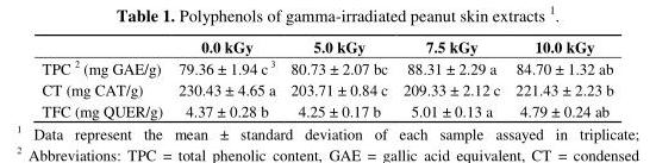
<table><thead><tr><td></td><td>0.0 kGy</td><td>5.0 kGy</td><td>7.5 kGy</td><td>10.0 kGy</td></tr></thead><tbody><tr><td>TPC 2 (mg GAE/g)</td><td>79.36 ± 1.94 c 3</td><td>80.73 ± 2.07 bc</td><td>88.31 ± 2.29 a</td><td>84.70 ± 1.32 ab</td></tr><tr><td>CT (mg CAT/g)</td><td>230.43 ± 4.65 a</td><td>203.71 ± 0.84 c</td><td>209.33 ± 2.12 c</td><td>221.43 ± 2.23 b</td></tr><tr><td>TFC (mg QUER/g)</td><td>4.37 ± 0.28 b</td><td>4.25 ± 0.17 b</td><td>5.01 ± 0.13 a</td><td>4.79 ± 0.24 ab</td></tr></tbody></table>